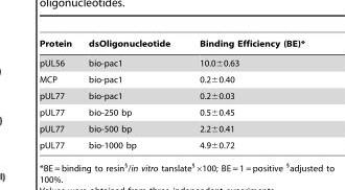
<table><thead><tr><td>Protein</td><td>dsOligonucleotide</td><td>Binding Efficiency (BE)*</td></tr></thead><tbody><tr><td>pUL56</td><td>bio-pac1</td><td>10.0±0.63</td></tr><tr><td>MCP</td><td>bio-pac1</td><td>0.2±0.40</td></tr><tr><td>pUL77</td><td>bio-pac1</td><td>0.2±0.03</td></tr><tr><td>pUL77</td><td>bio-250 bp</td><td>0.5±0.45</td></tr><tr><td>pUL77</td><td>bio-500 bp</td><td>2.2±0.41</td></tr><tr><td>pUL77</td><td>bio-1000 bp</td><td>4.9±0.72</td></tr></tbody></table>